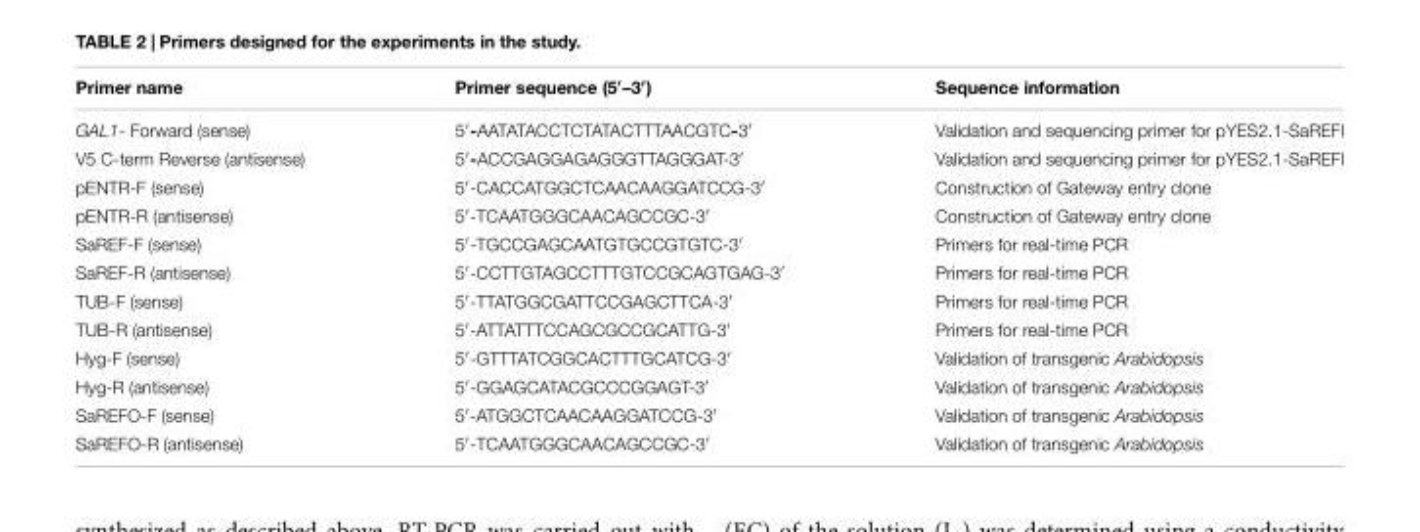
<table><thead><tr><td>Primer name</td><td>Primer sequence (5′–3′)</td><td>Sequence information</td></tr></thead><tbody><tr><td>GAL1- Forward (sense)</td><td>5′-AATATACCTCTATACTTTAACGTC-3′</td><td>Validation and sequencing primer for pYES2.1-SaREFl</td></tr><tr><td>V5 C-term Reverse (antisense)</td><td>5′-ACCGAGGAGAGGGTTAGGGAT-3′</td><td>Validation and sequencing primer for pYES2.1-SaREFl</td></tr><tr><td>pENTR-F (sense)</td><td>5′-CACCATGGCTCAACAAGGATCCG-3′</td><td>Construction of Gateway entry clone</td></tr><tr><td>pENTR-R (antisense)</td><td>5′-TCAATGGGCAACAGCCGC-3′</td><td>Construction of Gateway entry clone</td></tr><tr><td>SaREF-F (sense)</td><td>5′-TGCCGAGCAATGTGCCGTGTC-3′</td><td>Primers for real-time PCR</td></tr><tr><td>SaREF-R (antisense)</td><td>5′-CCTTGTAGCCTTTGTCCGCAGTGAG-3′</td><td>Primers for real-time PCR</td></tr><tr><td>TUB-F (sense)</td><td>5′-TTATGGCGATTCCGAGCTTCA-3′</td><td>Primers for real-time PCR</td></tr><tr><td>TUB-R (antisense)</td><td>5′-ATTATTTCCAGCGCCGCATTG-3′</td><td>Primers for real-time PCR</td></tr><tr><td>Hyg-F (sense)</td><td>5′-GTTTATCGGCACTTTGCATCG-3′</td><td>Validation of transgenic Arabidopsis</td></tr><tr><td>Hyg-R (antisense)</td><td>5′-GGAGCATACGCCCGGAGT-3′</td><td>Validation of transgenic Arabidopsis</td></tr><tr><td>SaREFO-F (sense)</td><td>5′-ATGGCTCAACAAGGATCCG-3′</td><td>Validation of transgenic Arabidopsis</td></tr><tr><td>SaREFO-R (antisense)</td><td>5′-TCAATGGGCAACAGCCGC-3′</td><td>Validation of transgenic Arabidopsis</td></tr></tbody></table>